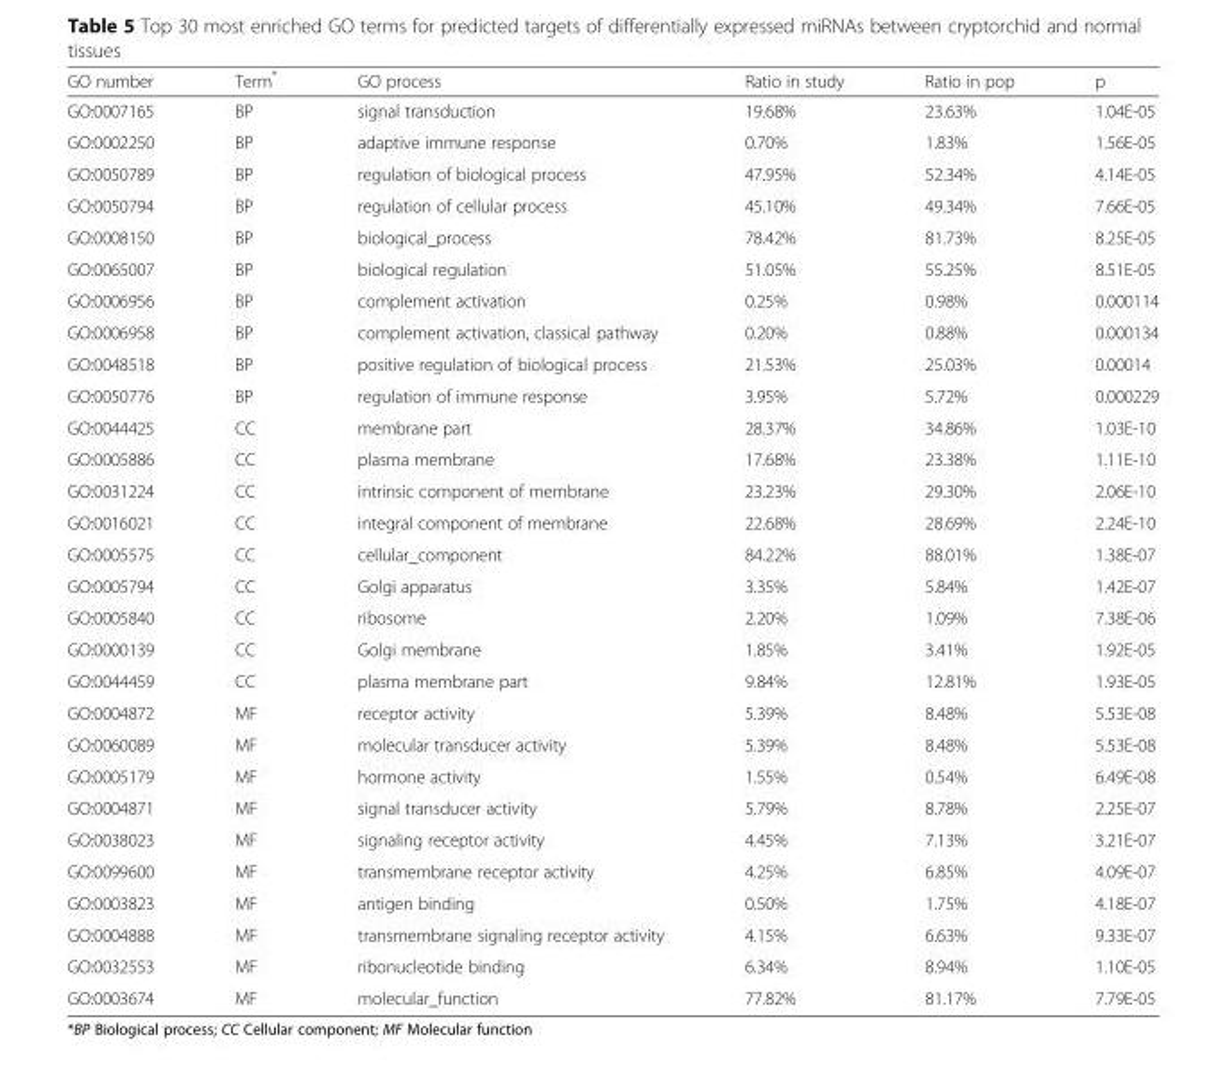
<table><thead><tr><td>GO number</td><td>Term*</td><td>GO process</td><td>Ratio in study</td><td>Ratio in pop</td><td>p</td></tr></thead><tbody><tr><td>GO:0007165</td><td>BP</td><td>signal transduction</td><td>19.68%</td><td>23.63%</td><td>1.04E-05</td></tr><tr><td>GO:0002250</td><td>BP</td><td>adaptive immune response</td><td>0.70%</td><td>1.83%</td><td>1.56E-05</td></tr><tr><td>GO:0050789</td><td>BP</td><td>regulation of biological process</td><td>47.95%</td><td>52.34%</td><td>4.14E-05</td></tr><tr><td>GO:0050794</td><td>BP</td><td>regulation of cellular process</td><td>45.10%</td><td>49.34%</td><td>7.66E-05</td></tr><tr><td>GO:0008150</td><td>BP</td><td>biological_process</td><td>78.42%</td><td>81.73%</td><td>8.25E-05</td></tr><tr><td>GO:0065007</td><td>BP</td><td>biological regulation</td><td>51.05%</td><td>55.25%</td><td>8.51E-05</td></tr><tr><td>GO:0006956</td><td>BP</td><td>complement activation</td><td>0.25%</td><td>0.98%</td><td>0.000114</td></tr><tr><td>GO:0006958</td><td>BP</td><td>complement activation, classical pathway</td><td>0.20%</td><td>0.88%</td><td>0.000134</td></tr><tr><td>GO:0048518</td><td>BP</td><td>positive regulation of biological process</td><td>21.53%</td><td>25.03%</td><td>0.00014</td></tr><tr><td>GO:0050776</td><td>BP</td><td>regulation of immune response</td><td>3.95%</td><td>5.72%</td><td>0.000229</td></tr><tr><td>GO:0044425</td><td>CC</td><td>membrane part</td><td>28.37%</td><td>34.86%</td><td>1.03E-10</td></tr><tr><td>GO:0005886</td><td>CC</td><td>plasma membrane</td><td>17.68%</td><td>23.38%</td><td>1.11E-10</td></tr><tr><td>GO:0031224</td><td>CC</td><td>intrinsic component of membrane</td><td>23.23%</td><td>29.30%</td><td>2.06E-10</td></tr><tr><td>GO:0016021</td><td>CC</td><td>integral component of membrane</td><td>22.68%</td><td>28.69%</td><td>2.24E-10</td></tr><tr><td>GO:0005575</td><td>CC</td><td>cellular_component</td><td>84.22%</td><td>88.01%</td><td>1.38E-07</td></tr><tr><td>GO:0005794</td><td>CC</td><td>Golgi apparatus</td><td>3.35%</td><td>5.84%</td><td>1.42E-07</td></tr><tr><td>GO:0005840</td><td>CC</td><td>ribosome</td><td>2.20%</td><td>1.09%</td><td>7.38E-06</td></tr><tr><td>GO:0000139</td><td>CC</td><td>Golgi membrane</td><td>1.85%</td><td>3.41%</td><td>1.92E-05</td></tr><tr><td>GO:0044459</td><td>CC</td><td>plasma membrane part</td><td>9.84%</td><td>12.81%</td><td>1.93E-05</td></tr><tr><td>GO:0004872</td><td>MF</td><td>receptor activity</td><td>5.39%</td><td>8.48%</td><td>5.53E-08</td></tr><tr><td>GO:0060089</td><td>MF</td><td>molecular transducer activity</td><td>5.39%</td><td>8.48%</td><td>5.53E-08</td></tr><tr><td>GO:0005179</td><td>MF</td><td>hormone activity</td><td>1.55%</td><td>0.54%</td><td>6.49E-08</td></tr><tr><td>GO:0004871</td><td>MF</td><td>signal transducer activity</td><td>5.79%</td><td>8.78%</td><td>2.25E-07</td></tr><tr><td>GO:0038023</td><td>MF</td><td>signaling receptor activity</td><td>4.45%</td><td>7.13%</td><td>3.21E-07</td></tr><tr><td>GO:0099600</td><td>MF</td><td>transmembrane receptor activity</td><td>4.25%</td><td>6.85%</td><td>4.09E-07</td></tr><tr><td>GO:0003823</td><td>MF</td><td>antigen binding</td><td>0.50%</td><td>1.75%</td><td>4.18E-07</td></tr><tr><td>GO:0004888</td><td>MF</td><td>transmembrane signaling receptor activity</td><td>4.15%</td><td>6.63%</td><td>9.33E-07</td></tr><tr><td>GO:0032553</td><td>MF</td><td>ribonucleotide binding</td><td>6.34%</td><td>8.94%</td><td>1.10E-05</td></tr><tr><td>GO:0003674</td><td>MF</td><td>molecular_function</td><td>77.82%</td><td>81.17%</td><td>7.79E-05</td></tr></tbody></table>